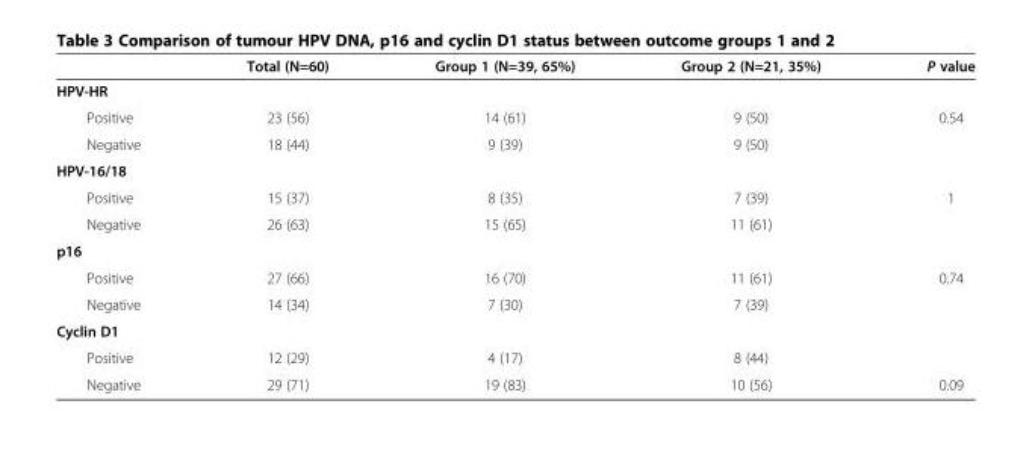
<table><thead><tr><td></td><td>Total (N=60)</td><td>Group 1 (N=39, 65%)</td><td>Group 2 (N=21, 35%)</td><td>P value</td></tr></thead><tbody><tr><td colspan="5">HPV-HR</td></tr><tr><td>Positive</td><td>23 (56)</td><td>14 (61)</td><td>9 (50)</td><td>0.54</td></tr><tr><td>Negative</td><td>18 (44)</td><td>9 (39)</td><td>9 (50)</td><td></td></tr><tr><td colspan="5">HPV-16/18</td></tr><tr><td>Positive</td><td>15 (37)</td><td>8 (35)</td><td>7 (39)</td><td>1</td></tr><tr><td>Negative</td><td>26 (63)</td><td>15 (65)</td><td>11 (61)</td><td></td></tr><tr><td colspan="5">p16</td></tr><tr><td>Positive</td><td>27 (66)</td><td>16 (70)</td><td>11 (61)</td><td>0.74</td></tr><tr><td>Negative</td><td>14 (34)</td><td>7 (30)</td><td>7 (39)</td><td></td></tr><tr><td colspan="5">Cyclin D1</td></tr><tr><td>Positive</td><td>12 (29)</td><td>4 (17)</td><td>8 (44)</td><td></td></tr><tr><td>Negative</td><td>29 (71)</td><td>19 (83)</td><td>10 (56)</td><td>0.09</td></tr></tbody></table>